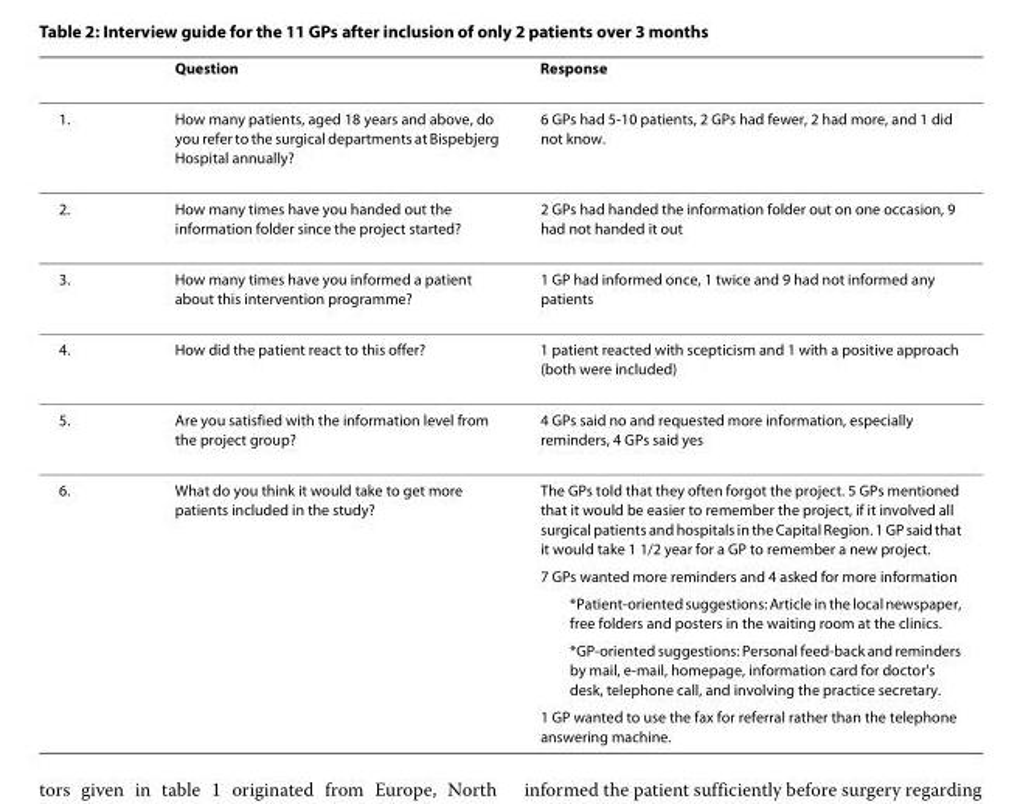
<table><thead><tr><td></td><td>Question</td><td>Response</td></tr></thead><tbody><tr><td>1.</td><td>How many patients, aged 18 years and above, do you refer to the surgical departments at Bispebjerg Hospital annually?</td><td>6 GPs had 5-10 patients, 2 GPs had fewer, 2 had more, and 1 did not know.</td></tr><tr><td>2.</td><td>How many times have you handed out the information folder since the project started?</td><td>2 GPs had handed the information folder out on one occasion, 9 had not handed it out</td></tr><tr><td>3.</td><td>How many times have you informed a patient about this intervention programme?</td><td>1 GP had informed once, 1 twice and 9 had not informed any patients</td></tr><tr><td>4.</td><td>How did the patient react to this offer?</td><td>1 patient reacted with scepticism and 1 with a positive approach (both were included)</td></tr><tr><td>5.</td><td>Are you satisfied with the information level from the project group?</td><td>4 GPs said no and requested more information, especially reminders, 4 GPs said yes</td></tr><tr><td rowspan="5">6.</td><td>What do you think it would take to get more patients included in the study?</td><td>The GPs told that they often forgot the project. 5 GPs mentioned that it would be easier to remember the project, if it involved all surgical patients and hospitals in the Capital Region. 1 GP said that it would take 1 1/2 year for a GP to remember a new project.</td></tr><tr><td></td><td>7 GPs wanted more reminders and 4 asked for more information</td></tr><tr><td></td><td>*Patient-oriented suggestions: Article in the local newspaper, free folders and posters in the waiting room at the clinics.</td></tr><tr><td></td><td>*GP-oriented suggestions: Personal feed-back and reminders by mail, e-mail, homepage, information card for doctor&#x27;s desk, telephone call, and involving the practice secretary.</td></tr><tr><td></td><td>1 GP wanted to use the fax for referral rather than the telephone answering machine.</td></tr></tbody></table>